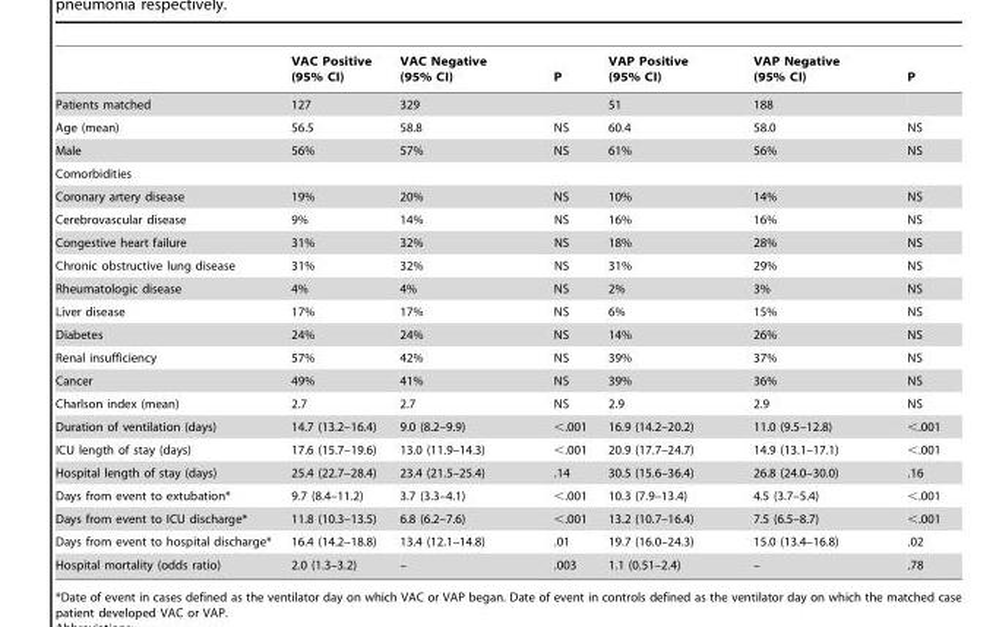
<table><thead><tr><td></td><td>VAC Positive (95% CI)</td><td>VAC Negative (95% CI)</td><td>P</td><td>VAP Positive (95% CI)</td><td>VAP Negative (95% CI)</td><td>P</td></tr></thead><tbody><tr><td>Patients matched</td><td>127</td><td>329</td><td></td><td>51</td><td>188</td><td></td></tr><tr><td>Age (mean)</td><td>56.5</td><td>58.8</td><td>NS</td><td>60.4</td><td>58.0</td><td>NS</td></tr><tr><td>Male</td><td>56%</td><td>57%</td><td>NS</td><td>61%</td><td>56%</td><td>NS</td></tr><tr><td colspan="7">Comorbidities</td></tr><tr><td>Coronary artery disease</td><td>19%</td><td>20%</td><td>NS</td><td>10%</td><td>14%</td><td>NS</td></tr><tr><td>Cerebrovascular disease</td><td>9%</td><td>14%</td><td>NS</td><td>16%</td><td>16%</td><td>NS</td></tr><tr><td>Congestive heart failure</td><td>31%</td><td>32%</td><td>NS</td><td>18%</td><td>28%</td><td>NS</td></tr><tr><td>Chronic obstructive lung disease</td><td>31%</td><td>32%</td><td>NS</td><td>31%</td><td>29%</td><td>NS</td></tr><tr><td>Rheumatologic disease</td><td>4%</td><td>4%</td><td>NS</td><td>2%</td><td>3%</td><td>NS</td></tr><tr><td>Liver disease</td><td>17%</td><td>17%</td><td>NS</td><td>6%</td><td>15%</td><td>NS</td></tr><tr><td>Diabetes</td><td>24%</td><td>24%</td><td>NS</td><td>14%</td><td>26%</td><td>NS</td></tr><tr><td>Renal insufficiency</td><td>57%</td><td>42%</td><td>NS</td><td>39%</td><td>37%</td><td>NS</td></tr><tr><td>Cancer</td><td>49%</td><td>41%</td><td>NS</td><td>39%</td><td>36%</td><td>NS</td></tr><tr><td>Charlson index (mean)</td><td>2.7</td><td>2.7</td><td>NS</td><td>2.9</td><td>2.9</td><td>NS</td></tr><tr><td>Duration of ventilation (days)</td><td>14.7 (13.2–16.4)</td><td>9.0 (8.2–9.9)</td><td>&lt;.001</td><td>16.9 (14.2–20.2)</td><td>11.0 (9.5–12.8)</td><td>&lt;.001</td></tr><tr><td>ICU length of stay (days)</td><td>17.6 (15.7–19.6)</td><td>13.0 (11.9–14.3)</td><td>&lt;.001</td><td>20.9 (17.7–24.7)</td><td>14.9 (13.1–17.1)</td><td>&lt;.001</td></tr><tr><td>Hospital length of stay (days)</td><td>25.4 (22.7–28.4)</td><td>23.4 (21.5–25.4)</td><td>.14</td><td>30.5 (15.6–36.4)</td><td>26.8 (24.0–30.0)</td><td>.16</td></tr><tr><td>Days from event to extubation*</td><td>9.7 (8.4–11.2)</td><td>3.7 (3.3–4.1)</td><td>&lt;.001</td><td>10.3 (7.9–13.4)</td><td>4.5 (3.7–5.4)</td><td>&lt;.001</td></tr><tr><td>Days from event to ICU discharge*</td><td>11.8 (10.3–13.5)</td><td>6.8 (6.2–7.6)</td><td>&lt;.001</td><td>13.2 (10.7–16.4)</td><td>7.5 (6.5–8.7)</td><td>&lt;.001</td></tr><tr><td>Days from event to hospital discharge*</td><td>16.4 (14.2–18.8)</td><td>13.4 (12.1–14.8)</td><td>.01</td><td>19.7 (16.0–24.3)</td><td>15.0 (13.4–16.8)</td><td>.02</td></tr><tr><td>Hospital mortality (odds ratio)</td><td>2.0 (1.3–3.2)</td><td>–</td><td>.003</td><td>1.1 (0.51–2.4)</td><td>–</td><td>.78</td></tr></tbody></table>